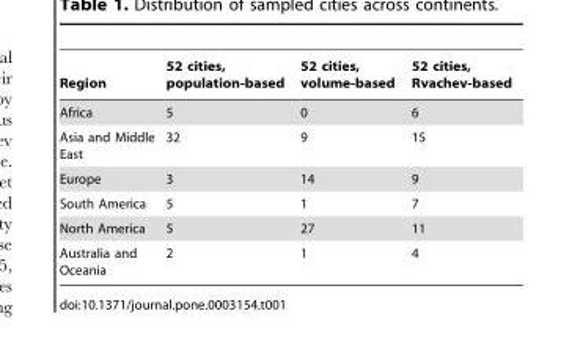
<table><thead><tr><td>Region</td><td>52 cities, population-based</td><td>52 cities, volume-based</td><td>52 cities, Rvachev-based</td></tr></thead><tbody><tr><td>Africa</td><td>5</td><td>0</td><td>6</td></tr><tr><td>Asia and Middle East</td><td>32</td><td>9</td><td>15</td></tr><tr><td>Europe</td><td>3</td><td>14</td><td>9</td></tr><tr><td>South America</td><td>5</td><td>1</td><td>7</td></tr><tr><td>North America</td><td>5</td><td>27</td><td>11</td></tr><tr><td>Australia and Oceania</td><td>2</td><td>1</td><td>4</td></tr></tbody></table>